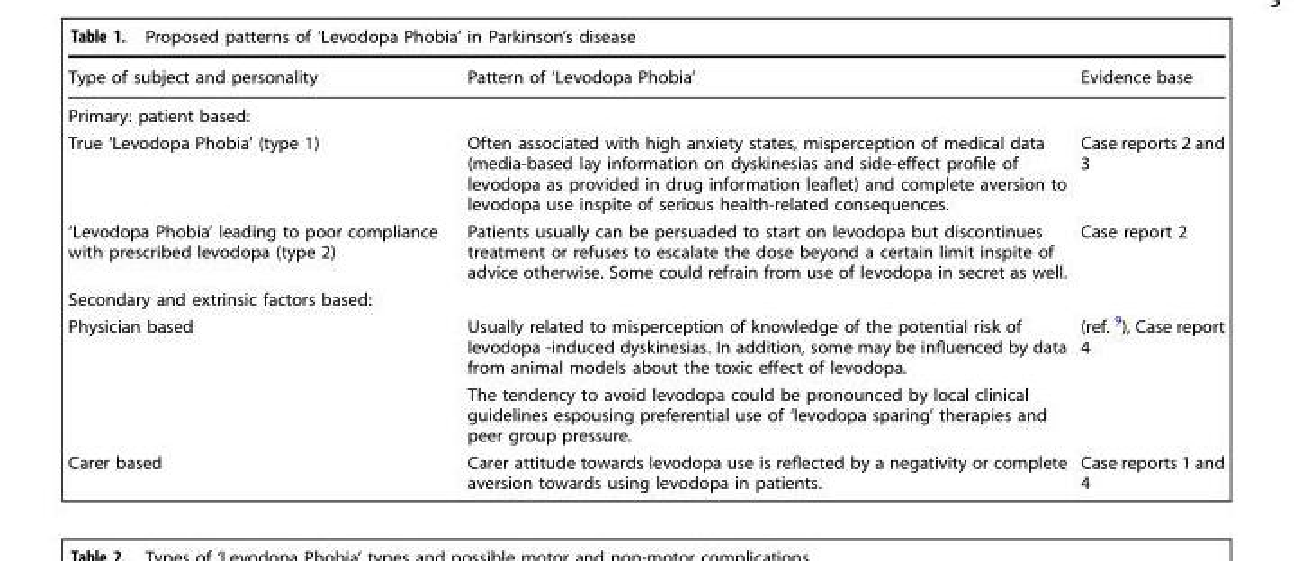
<table><thead><tr><td>Type of subject and personality</td><td>Pattern of ‘Levodopa Phobia’</td><td>Evidence base</td></tr></thead><tbody><tr><td colspan="3">Primary: patient based:</td></tr><tr><td>True ‘Levodopa Phobia’ (type 1)</td><td>Often associated with high anxiety states, misperception of medical data (media-based lay information on dyskinesias and side-effect profile of levodopa as provided in drug information leaflet) and complete aversion to levodopa use inspite of serious health-related consequences.</td><td>Case reports 2 and 3</td></tr><tr><td>‘Levodopa Phobia’ leading to poor compliance with prescribed levodopa (type 2)</td><td>Patients usually can be persuaded to start on levodopa but discontinues treatment or refuses to escalate the dose beyond a certain limit inspite of advice otherwise. Some could refrain from use of levodopa in secret as well.</td><td>Case report 2</td></tr><tr><td colspan="3">Secondary and extrinsic factors based:</td></tr><tr><td rowspan="2">Physician based</td><td>Usually related to misperception of knowledge of the potential risk of levodopa -induced dyskinesias. In addition, some may be influenced by data from animal models about the toxic effect of levodopa.</td><td rowspan="2">(ref. <sup>9</sup>), Case report 4</td></tr><tr><td>The tendency to avoid levodopa could be pronounced by local clinical guidelines espousing preferential use of ‘levodopa sparing’ therapies and peer group pressure.</td></tr><tr><td>Carer based</td><td>Carer attitude towards levodopa use is reflected by a negativity or complete aversion towards using levodopa in patients.</td><td>Case reports 1 and 4</td></tr></tbody></table>